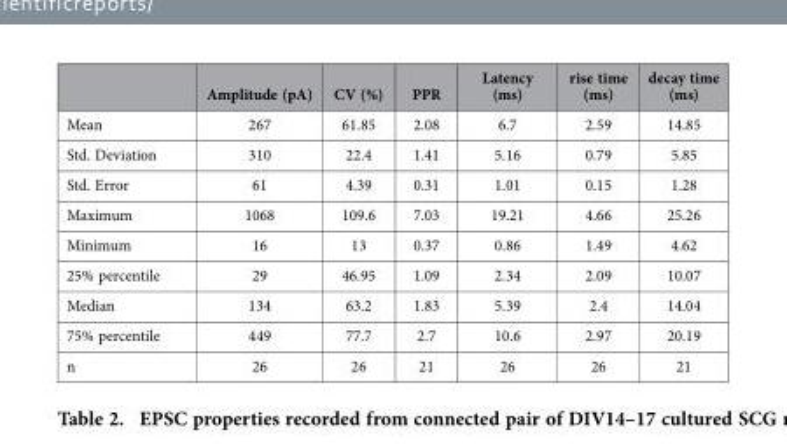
<table><thead><tr><td></td><td>Amplitude (pA)</td><td>CV (%)</td><td>PPR</td><td>Latency (ms)</td><td>rise time (ms)</td><td>decay time (ms)</td></tr></thead><tbody><tr><td>Mean</td><td>267</td><td>61.85</td><td>2.08</td><td>6.7</td><td>2.59</td><td>14.85</td></tr><tr><td>Std. Deviation</td><td>310</td><td>22.4</td><td>1.41</td><td>5.16</td><td>0.79</td><td>5.85</td></tr><tr><td>Std. Error</td><td>61</td><td>4.39</td><td>0.31</td><td>1.01</td><td>0.15</td><td>1.28</td></tr><tr><td>Maximum</td><td>1068</td><td>109.6</td><td>7.03</td><td>19.21</td><td>4.66</td><td>25.26</td></tr><tr><td>Minimum</td><td>16</td><td>13</td><td>0.37</td><td>0.86</td><td>1.49</td><td>4.62</td></tr><tr><td>25% percentile</td><td>29</td><td>46.95</td><td>1.09</td><td>2.34</td><td>2.09</td><td>10.07</td></tr><tr><td>Median</td><td>134</td><td>63.2</td><td>1.83</td><td>5.39</td><td>2.4</td><td>14.04</td></tr><tr><td>75% percentile</td><td>449</td><td>77.7</td><td>2.7</td><td>10.6</td><td>2.97</td><td>20.19</td></tr><tr><td>n</td><td>26</td><td>26</td><td>21</td><td>26</td><td>26</td><td>21</td></tr></tbody></table>